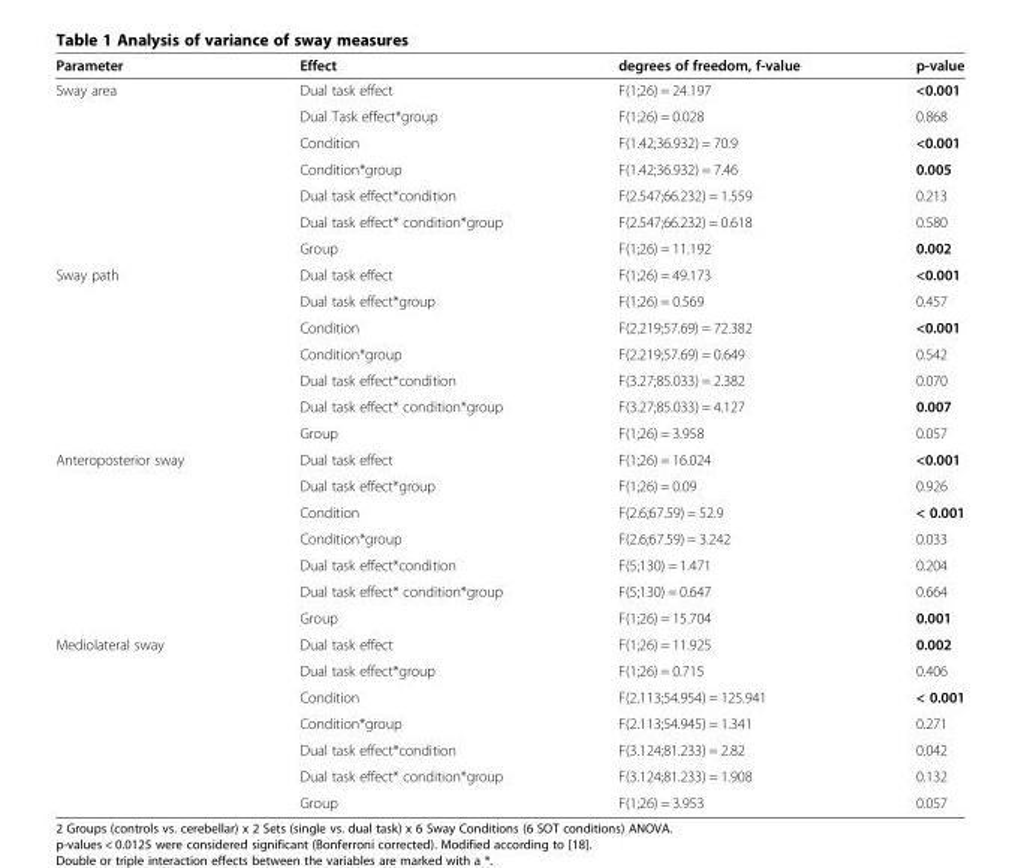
<table><thead><tr><td>Parameter</td><td>Effect</td><td>degrees of freedom, f-value</td><td>p-value</td></tr></thead><tbody><tr><td rowspan="7">Sway area</td><td>Dual task effect</td><td>F(1;26) = 24.197</td><td>&lt;0.001</td></tr><tr><td>Dual Task effect*group</td><td>F(1;26) = 0.028</td><td>0.868</td></tr><tr><td>Condition</td><td>F(1.42;36.932) = 70.9</td><td>&lt;0.001</td></tr><tr><td>Condition*group</td><td>F(1.42;36.932) = 7.46</td><td>0.005</td></tr><tr><td>Dual task effect*condition</td><td>F(2.547;66.232) = 1.559</td><td>0.213</td></tr><tr><td>Dual task effect* condition*group</td><td>F(2.547;66.232) = 0.618</td><td>0.580</td></tr><tr><td>Group</td><td>F(1;26) = 11.192</td><td>0.002</td></tr><tr><td rowspan="7">Sway path</td><td>Dual task effect</td><td>F(1;26) = 49.173</td><td>&lt;0.001</td></tr><tr><td>Dual task effect*group</td><td>F(1;26) = 0.569</td><td>0.457</td></tr><tr><td>Condition</td><td>F(2.219;57.69) = 72.382</td><td>&lt;0.001</td></tr><tr><td>Condition*group</td><td>F(2.219;57.69) = 0.649</td><td>0.542</td></tr><tr><td>Dual task effect*condition</td><td>F(3.27;85.033) = 2.382</td><td>0.070</td></tr><tr><td>Dual task effect* condition*group</td><td>F(3.27;85.033) = 4.127</td><td>0.007</td></tr><tr><td>Group</td><td>F(1;26) = 3.958</td><td>0.057</td></tr><tr><td rowspan="7">Anteroposterior sway</td><td>Dual task effect</td><td>F(1;26) = 16.024</td><td>&lt;0.001</td></tr><tr><td>Dual task effect*group</td><td>F(1;26) = 0.09</td><td>0.926</td></tr><tr><td>Condition</td><td>F(2.6;67.59) = 52.9</td><td>&lt; 0.001</td></tr><tr><td>Condition*group</td><td>F(2.6;67.59) = 3.242</td><td>0.033</td></tr><tr><td>Dual task effect*condition</td><td>F(5;130) = 1.471</td><td>0.204</td></tr><tr><td>Dual task effect* condition*group</td><td>F(5;130) = 0.647</td><td>0.664</td></tr><tr><td>Group</td><td>F(1;26) = 15.704</td><td>0.001</td></tr><tr><td rowspan="7">Mediolateral sway</td><td>Dual task effect</td><td>F(1;26) = 11.925</td><td>0.002</td></tr><tr><td>Dual task effect*group</td><td>F(1;26) = 0.715</td><td>0.406</td></tr><tr><td>Condition</td><td>F(2.113;54.954) = 125.941</td><td>&lt; 0.001</td></tr><tr><td>Condition*group</td><td>F(2.113;54.945) = 1.341</td><td>0.271</td></tr><tr><td>Dual task effect*condition</td><td>F(3.124;81.233) = 2.82</td><td>0.042</td></tr><tr><td>Dual task effect* condition*group</td><td>F(3.124;81.233) = 1.908</td><td>0.132</td></tr><tr><td>Group</td><td>F(1;26) = 3.953</td><td>0.057</td></tr></tbody></table>